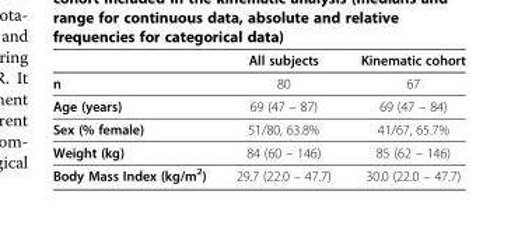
<table><thead><tr><td></td><td>All subjects</td><td>Kinematic cohort</td></tr></thead><tbody><tr><td>n</td><td>80</td><td>67</td></tr><tr><td>Age (years)</td><td>69 (47 – 87)</td><td>69 (47 – 84)</td></tr><tr><td>Sex (% female)</td><td>51/80, 63.8%</td><td>41/67, 65.7%</td></tr><tr><td>Weight (kg)</td><td>84 (60 – 146)</td><td>85 (62 – 146)</td></tr><tr><td>Body Mass Index (kg/m<sup>2</sup>)</td><td>29.7 (22.0 – 47.7)</td><td>30.0 (22.0 – 47.7)</td></tr></tbody></table>